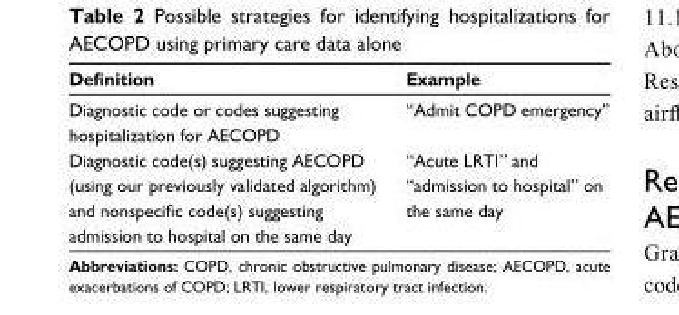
<table><thead><tr><td>Definition</td><td>Example</td></tr></thead><tbody><tr><td>Diagnostic code or codes suggesting hospitalization for AECOPD</td><td>“Admit COPD emergency”</td></tr><tr><td>Diagnostic code(s) suggesting AECOPD (using our previously validated algorithm) and nonspecific code(s) suggesting admission to hospital on the same day</td><td>“Acute LRTI” and “admission to hospital” on the same day</td></tr></tbody></table>